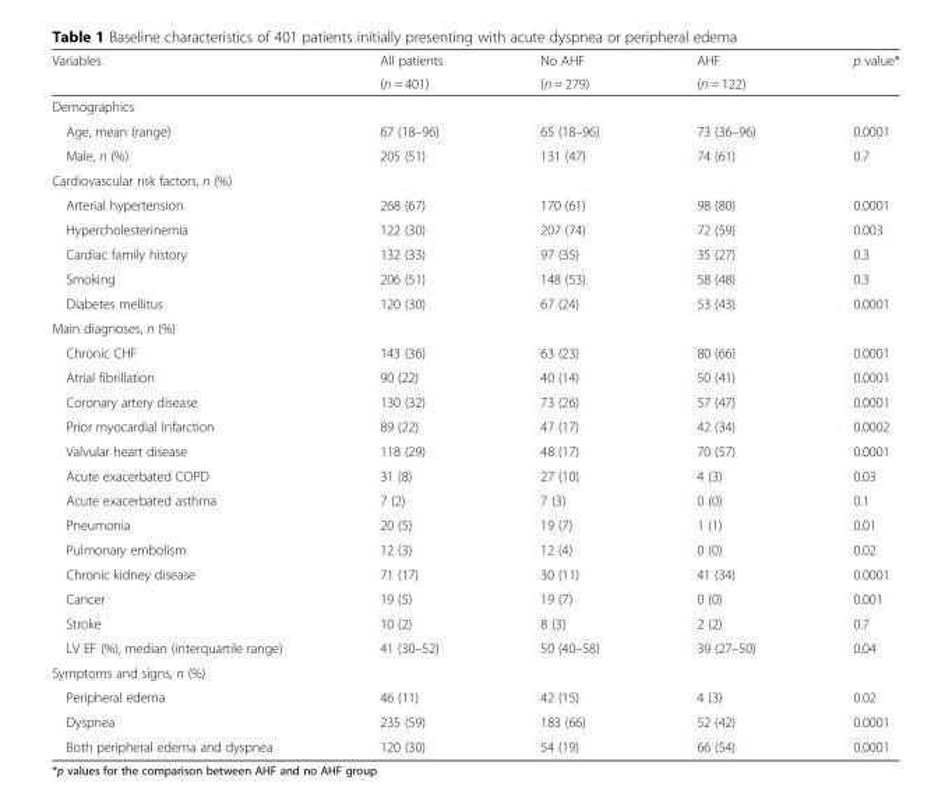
<table><thead><tr><td rowspan="2">Variables</td><td rowspan="2">All patients (n = 401)</td><td rowspan="2">No AHF (n = 279)</td><td rowspan="2">AHF (n = 122)</td><td rowspan="2">p value*</td></tr><tr></tr></thead><tbody><tr><td colspan="5">Demographics</td></tr><tr><td>Age, mean (range)</td><td>67 (18–96)</td><td>65 (18–96)</td><td>73 (36–96)</td><td>0.0001</td></tr><tr><td>Male, n (%)</td><td>205 (51)</td><td>131 (47)</td><td>74 (61)</td><td>0.7</td></tr><tr><td colspan="5">Cardiovascular risk factors, n (%)</td></tr><tr><td>Arterial hypertension</td><td>268 (67)</td><td>170 (61)</td><td>98 (80)</td><td>0.0001</td></tr><tr><td>Hypercholesterinemia</td><td>122 (30)</td><td>207 (74)</td><td>72 (59)</td><td>0.003</td></tr><tr><td>Cardiac family history</td><td>132 (33)</td><td>97 (35)</td><td>35 (27)</td><td>0.3</td></tr><tr><td>Smoking</td><td>206 (51)</td><td>148 (53)</td><td>58 (48)</td><td>0.3</td></tr><tr><td>Diabetes mellitus</td><td>120 (30)</td><td>67 (24)</td><td>53 (43)</td><td>0.0001</td></tr><tr><td colspan="5">Main diagnoses, n (%)</td></tr><tr><td>Chronic CHF</td><td>143 (36)</td><td>63 (23)</td><td>80 (66)</td><td>0.0001</td></tr><tr><td>Atrial fibrillation</td><td>90 (22)</td><td>40 (14)</td><td>50 (41)</td><td>0.0001</td></tr><tr><td>Coronary artery disease</td><td>130 (32)</td><td>73 (26)</td><td>57 (47)</td><td>0.0001</td></tr><tr><td>Prior myocardial Infarction</td><td>89 (22)</td><td>47 (17)</td><td>42 (34)</td><td>0.0002</td></tr><tr><td>Valvular heart disease</td><td>118 (29)</td><td>48 (17)</td><td>70 (57)</td><td>0.0001</td></tr><tr><td>Acute exacerbated COPD</td><td>31 (8)</td><td>27 (10)</td><td>4 (3)</td><td>0.03</td></tr><tr><td>Acute exacerbated asthma</td><td>7 (2)</td><td>7 (3)</td><td>0 (0)</td><td>0.1</td></tr><tr><td>Pneumonia</td><td>20 (5)</td><td>19 (7)</td><td>1 (1)</td><td>0.01</td></tr><tr><td>Pulmonary embolism</td><td>12 (3)</td><td>12 (4)</td><td>0 (0)</td><td>0.02</td></tr><tr><td>Chronic kidney disease</td><td>71 (17)</td><td>30 (11)</td><td>41 (34)</td><td>0.0001</td></tr><tr><td>Cancer</td><td>19 (5)</td><td>19 (7)</td><td>0 (0)</td><td>0.001</td></tr><tr><td>Stroke</td><td>10 (2)</td><td>8 (3)</td><td>2 (2)</td><td>0.7</td></tr><tr><td>LV EF (%), median (interquartile range)</td><td>41 (30–52)</td><td>50 (40–58)</td><td>39 (27–50)</td><td>0.04</td></tr><tr><td colspan="5">Symptoms and signs, n (%)</td></tr><tr><td>Peripheral edema</td><td>46 (11)</td><td>42 (15)</td><td>4 (3)</td><td>0.02</td></tr><tr><td>Dyspnea</td><td>235 (59)</td><td>183 (66)</td><td>52 (42)</td><td>0.0001</td></tr><tr><td>Both peripheral edema and dyspnea</td><td>120 (30)</td><td>54 (19)</td><td>66 (54)</td><td>0.0001</td></tr></tbody></table>